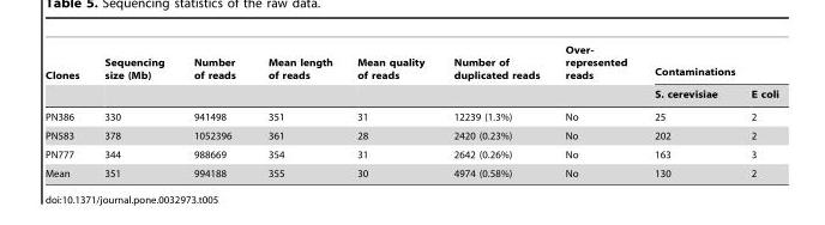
<table><thead><tr><td rowspan="2">Clones</td><td rowspan="2">Sequencing size (Mb)</td><td rowspan="2">Number of reads</td><td rowspan="2">Mean length of reads</td><td rowspan="2">Mean quality of reads</td><td rowspan="2">Number of duplicated reads</td><td rowspan="2">Over- represented reads</td><td colspan="2">Contaminations</td></tr><tr><td>S. cerevisiae</td><td>E coli</td></tr></thead><tbody><tr><td>PN386</td><td>330</td><td>941498</td><td>351</td><td>31</td><td>12239 (1.3%)</td><td>No</td><td>25</td><td>2</td></tr><tr><td>PN583</td><td>378</td><td>1052396</td><td>361</td><td>28</td><td>2420 (0.23%)</td><td>No</td><td>202</td><td>2</td></tr><tr><td>PN777</td><td>344</td><td>988669</td><td>354</td><td>31</td><td>2642 (0.26%)</td><td>No</td><td>163</td><td>3</td></tr><tr><td>Mean</td><td>351</td><td>994188</td><td>355</td><td>30</td><td>4974 (0.58%)</td><td>No</td><td>130</td><td>2</td></tr></tbody></table>